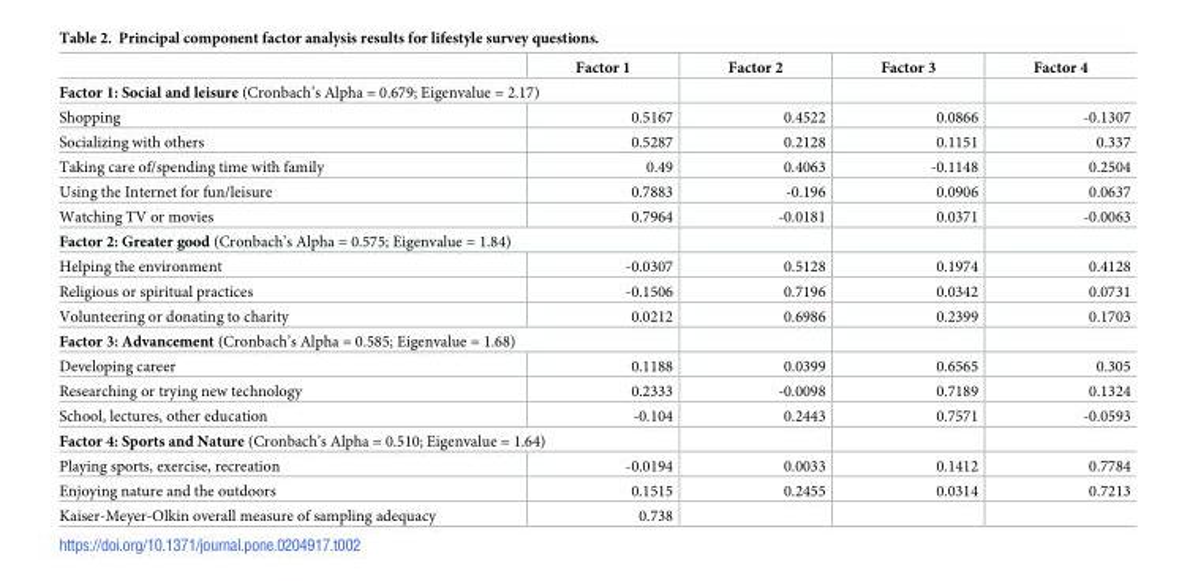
<table><thead><tr><td></td><td>Factor 1</td><td>Factor 2</td><td>Factor 3</td><td>Factor 4</td></tr></thead><tbody><tr><td colspan="5">Factor 1: Social and leisure (Cronbach’s Alpha = 0.679; Eigenvalue = 2.17)</td></tr><tr><td>Shopping</td><td>0.5167</td><td>0.4522</td><td>0.0866</td><td>-0.1307</td></tr><tr><td>Socializing with others</td><td>0.5287</td><td>0.2128</td><td>0.1151</td><td>0.337</td></tr><tr><td>Taking care of/spending time with family</td><td>0.49</td><td>0.4063</td><td>-0.1148</td><td>0.2504</td></tr><tr><td>Using the Internet for fun/leisure</td><td>0.7883</td><td>-0.196</td><td>0.0906</td><td>0.0637</td></tr><tr><td>Watching TV or movies</td><td>0.7964</td><td>-0.0181</td><td>0.0371</td><td>-0.0063</td></tr><tr><td colspan="5">Factor 2: Greater good (Cronbach’s Alpha = 0.575; Eigenvalue = 1.84)</td></tr><tr><td>Helping the environment</td><td>-0.0307</td><td>0.5128</td><td>0.1974</td><td>0.4128</td></tr><tr><td>Religious or spiritual practices</td><td>-0.1506</td><td>0.7196</td><td>0.0342</td><td>0.0731</td></tr><tr><td>Volunteering or donating to charity</td><td>0.0212</td><td>0.6986</td><td>0.2399</td><td>0.1703</td></tr><tr><td colspan="5">Factor 3: Advancement (Cronbach’s Alpha = 0.585; Eigenvalue = 1.68)</td></tr><tr><td>Developing career</td><td>0.1188</td><td>0.0399</td><td>0.6565</td><td>0.305</td></tr><tr><td>Researching or trying new technology</td><td>0.2333</td><td>-0.0098</td><td>0.7189</td><td>0.1324</td></tr><tr><td>School, lectures, other education</td><td>-0.104</td><td>0.2443</td><td>0.7571</td><td>-0.0593</td></tr><tr><td colspan="5">Factor 4: Sports and Nature (Cronbach’s Alpha = 0.510; Eigenvalue = 1.64)</td></tr><tr><td>Playing sports, exercise, recreation</td><td>-0.0194</td><td>0.0033</td><td>0.1412</td><td>0.7784</td></tr><tr><td>Enjoying nature and the outdoors</td><td>0.1515</td><td>0.2455</td><td>0.0314</td><td>0.7213</td></tr><tr><td>Kaiser-Meyer-Olkin overall measure of sampling adequacy</td><td>0.738</td><td></td><td></td><td></td></tr></tbody></table>